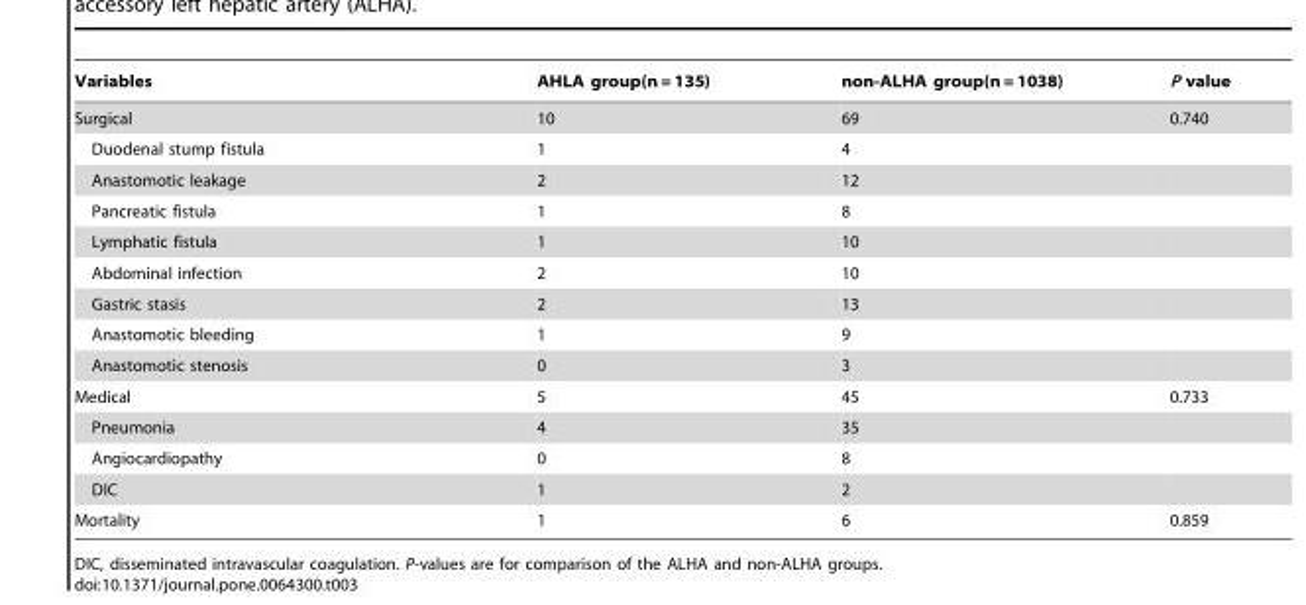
<table><thead><tr><td>Variables</td><td>AHLA group(n = 135)</td><td>non-ALHA group(n = 1038)</td><td>P value</td></tr></thead><tbody><tr><td>Surgical</td><td>10</td><td>69</td><td>0.740</td></tr><tr><td>Duodenal stump fistula</td><td>1</td><td>4</td><td></td></tr><tr><td>Anastomotic leakage</td><td>2</td><td>12</td><td></td></tr><tr><td>Pancreatic fistula</td><td>1</td><td>8</td><td></td></tr><tr><td>Lymphatic fistula</td><td>1</td><td>10</td><td></td></tr><tr><td>Abdominal infection</td><td>2</td><td>10</td><td></td></tr><tr><td>Gastric stasis</td><td>2</td><td>13</td><td></td></tr><tr><td>Anastomotic bleeding</td><td>1</td><td>9</td><td></td></tr><tr><td>Anastomotic stenosis</td><td>0</td><td>3</td><td></td></tr><tr><td>Medical</td><td>5</td><td>45</td><td>0.733</td></tr><tr><td>Pneumonia</td><td>4</td><td>35</td><td></td></tr><tr><td>Angiocardiopathy</td><td>0</td><td>8</td><td></td></tr><tr><td>DIC</td><td>1</td><td>2</td><td></td></tr><tr><td>Mortality</td><td>1</td><td>6</td><td>0.859</td></tr></tbody></table>